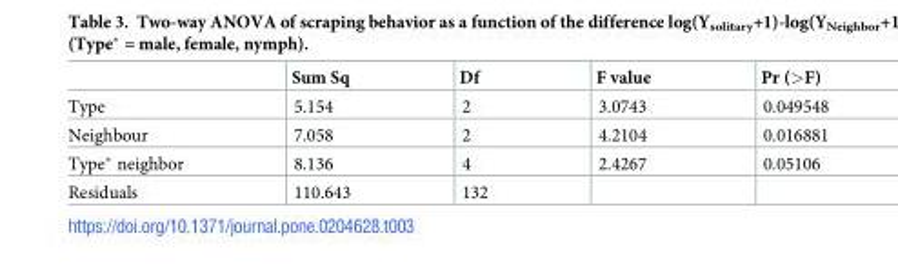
<table><thead><tr><td></td><td>Sum Sq</td><td>Df</td><td>F value</td><td>Pr (&gt;F)</td></tr></thead><tbody><tr><td>Type</td><td>5.154</td><td>2</td><td>3.0743</td><td>0.049548</td></tr><tr><td>Neighbour</td><td>7.058</td><td>2</td><td>4.2104</td><td>0.016881</td></tr><tr><td>Type* neighbor</td><td>8.136</td><td>4</td><td>2.4267</td><td>0.05106</td></tr><tr><td>Residuals</td><td>110.643</td><td>132</td><td></td><td></td></tr></tbody></table>